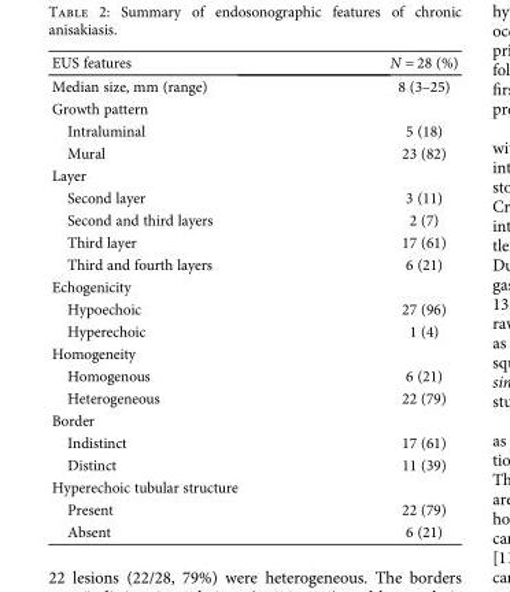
<table><thead><tr><td>EUS features</td><td>N = 28 (%)</td></tr></thead><tbody><tr><td>Median size, mm (range)</td><td>8 (3–25)</td></tr><tr><td colspan="2">Growth pattern</td></tr><tr><td>Intraluminal</td><td>5 (18)</td></tr><tr><td>Mural</td><td>23 (82)</td></tr><tr><td colspan="2">Layer</td></tr><tr><td>Second layer</td><td>3 (11)</td></tr><tr><td>Second and third layers</td><td>2 (7)</td></tr><tr><td>Third layer</td><td>17 (61)</td></tr><tr><td>Third and fourth layers</td><td>6 (21)</td></tr><tr><td colspan="2">Echogenicity</td></tr><tr><td>Hypoechoic</td><td>27 (96)</td></tr><tr><td>Hyperechoic</td><td>1 (4)</td></tr><tr><td colspan="2">Homogeneity</td></tr><tr><td>Homogenous</td><td>6 (21)</td></tr><tr><td>Heterogeneous</td><td>22 (79)</td></tr><tr><td colspan="2">Border</td></tr><tr><td>Indistinct</td><td>17 (61)</td></tr><tr><td>Distinct</td><td>11 (39)</td></tr><tr><td colspan="2">Hyperechoic tubular structure</td></tr><tr><td>Present</td><td>22 (79)</td></tr><tr><td>Absent</td><td>6 (21)</td></tr></tbody></table>